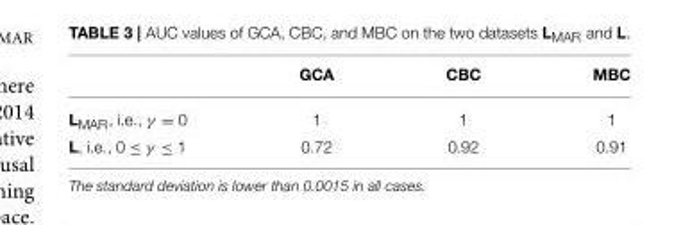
<table><thead><tr><td></td><td>GCA</td><td>CBC</td><td>MBC</td></tr></thead><tbody><tr><td>L<sub>MAR</sub>, i.e., γ = 0</td><td>1</td><td>1</td><td>1</td></tr><tr><td>L, i.e., 0 ≤ γ ≤ 1</td><td>0.72</td><td>0.92</td><td>0.91</td></tr></tbody></table>